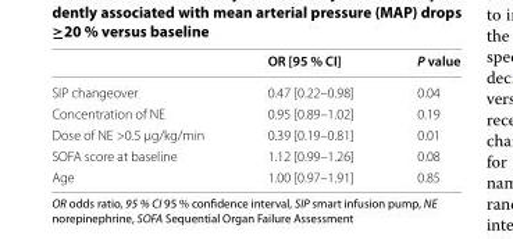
<table><thead><tr><td></td><td>OR [95 % CI]</td><td>P value</td></tr></thead><tbody><tr><td>SIP changeover</td><td>0.47 [0.22–0.98]</td><td>0.04</td></tr><tr><td>Concentration of NE</td><td>0.95 [0.89–1.02]</td><td>0.19</td></tr><tr><td>Dose of NE &gt;0.5 μg/kg/min</td><td>0.39 [0.19–0.81]</td><td>0.01</td></tr><tr><td>SOFA score at baseline</td><td>1.12 [0.99–1.26]</td><td>0.08</td></tr><tr><td>Age</td><td>1.00 [0.97–1.91]</td><td>0.85</td></tr></tbody></table>